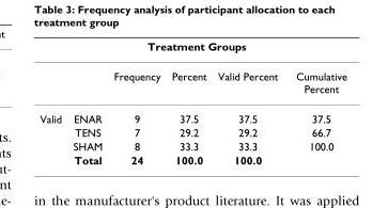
<table><thead><tr><td colspan="6">Treatment Groups</td></tr><tr><td></td><td></td><td>Frequency</td><td>Percent</td><td>Valid Percent</td><td>Cumulative Percent</td></tr></thead><tbody><tr><td rowspan="4">Valid</td><td>ENAR</td><td>9</td><td>37.5</td><td>37.5</td><td>37.5</td></tr><tr><td>TENS</td><td>7</td><td>29.2</td><td>29.2</td><td>66.7</td></tr><tr><td>SHAM</td><td>8</td><td>33.3</td><td>33.3</td><td>100.0</td></tr><tr><td>Total</td><td>24</td><td>100.0</td><td>100.0</td><td></td></tr></tbody></table>